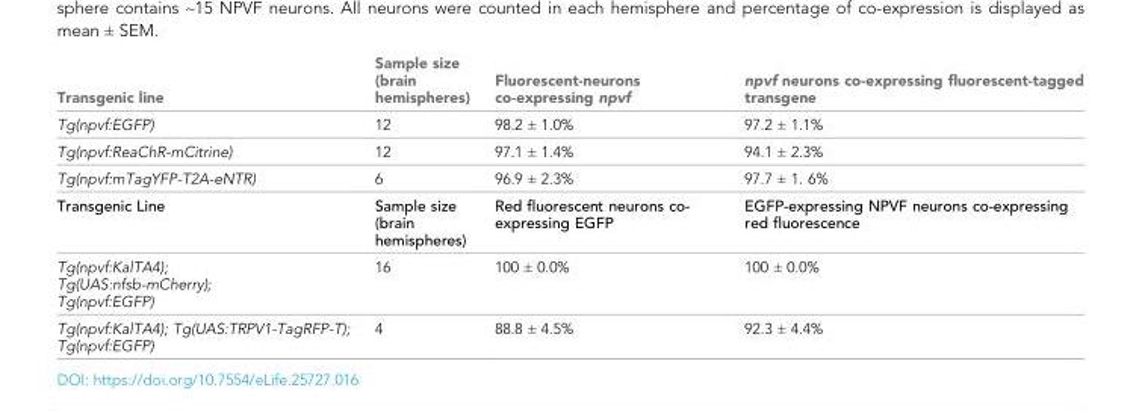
<table><thead><tr><td>Transgenic line</td><td>Sample size (brain hemispheres)</td><td>Fluorescent-neurons co-expressing npvf</td><td>npvf neurons co-expressing fluorescent-tagged transgene</td></tr></thead><tbody><tr><td>Tg(npvf:EGFP)</td><td>12</td><td>98.2 ± 1.0%</td><td>97.2 ± 1.1%</td></tr><tr><td>Tg(npvf:ReaChR-mCitrine)</td><td>12</td><td>97.1 ± 1.4%</td><td>94.1 ± 2.3%</td></tr><tr><td>Tg(npvf:mTagYFP-T2A-eNTR)</td><td>6</td><td>96.9 ± 2.3%</td><td>97.7 ± 1. 6%</td></tr><tr><td>Transgenic Line</td><td>Sample size (brain hemispheres)</td><td>Red fluorescent neurons co- expressing EGFP</td><td>EGFP-expressing NPVF neurons co-expressing red fluorescence</td></tr><tr><td>Tg(npvf:KalTA4); Tg(UAS:nfsb-mCherry); Tg(npvf:EGFP)</td><td>16</td><td>100 ± 0.0%</td><td>100 ± 0.0%</td></tr><tr><td>Tg(npvf:KalTA4); Tg(UAS:TRPV1-TagRFP-T); Tg(npvf:EGFP)</td><td>4</td><td>88.8 ± 4.5%</td><td>92.3 ± 4.4%</td></tr></tbody></table>